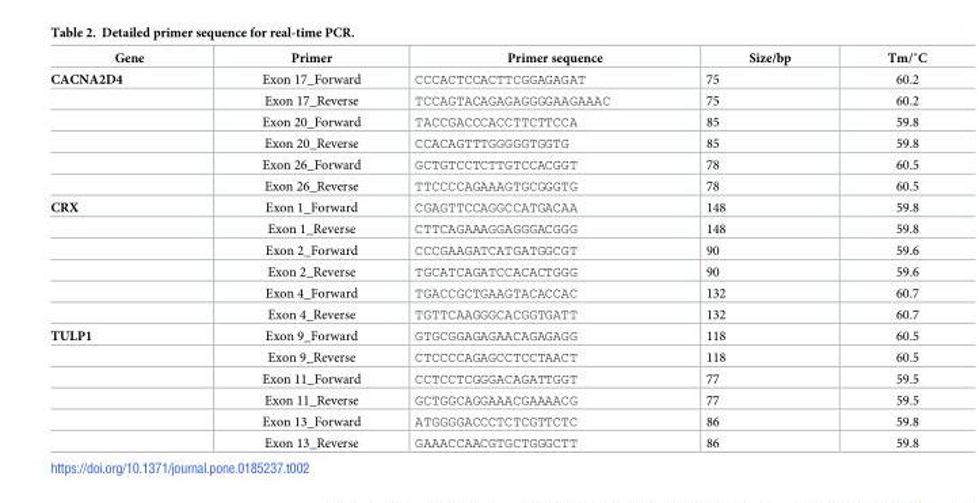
<table><thead><tr><td>Gene</td><td>Primer</td><td>Primer sequence</td><td>Size/bp</td><td>Tm/˚C</td></tr></thead><tbody><tr><td rowspan="6">CACNA2D4</td><td>Exon 17_Forward</td><td>CCCACTCCACTTCGGAGAGAT</td><td>75</td><td>60.2</td></tr><tr><td>Exon 17_Reverse</td><td>TCCAGTACAGAGAGGGGAAGAAAC</td><td>75</td><td>60.2</td></tr><tr><td>Exon 20_Forward</td><td>TACCGACCCACCTTCTTCCA</td><td>85</td><td>59.8</td></tr><tr><td>Exon 20_Reverse</td><td>CCACAGTTTGGGGGTGGTG</td><td>85</td><td>59.8</td></tr><tr><td>Exon 26_Forward</td><td>GCTGTCCTCTTGTCCACGGT</td><td>78</td><td>60.5</td></tr><tr><td>Exon 26_Reverse</td><td>TTCCCCAGAAAGTGCGGGTG</td><td>78</td><td>60.5</td></tr><tr><td rowspan="6">CRX</td><td>Exon 1_Forward</td><td>CGAGTTCCAGGCCATGACAA</td><td>148</td><td>59.8</td></tr><tr><td>Exon 1_Reverse</td><td>CTTCAGAAAGGAGGGACGGG</td><td>148</td><td>59.8</td></tr><tr><td>Exon 2_Forward</td><td>CCCGAAGATCATGATGGCGT</td><td>90</td><td>59.6</td></tr><tr><td>Exon 2_Reverse</td><td>TGCATCAGATCCACACTGGG</td><td>90</td><td>59.6</td></tr><tr><td>Exon 4_Forward</td><td>TGACCGCTGAAGTACACCAC</td><td>132</td><td>60.7</td></tr><tr><td>Exon 4_Reverse</td><td>TGTTCAAGGGCACGGTGATT</td><td>132</td><td>60.7</td></tr><tr><td rowspan="6">TULP1</td><td>Exon 9_Forward</td><td>GTGCGGAGAGAACAGAGAGG</td><td>118</td><td>60.5</td></tr><tr><td>Exon 9_Reverse</td><td>CTCCCCAGAGCCTCCTAACT</td><td>118</td><td>60.5</td></tr><tr><td>Exon 11_Forward</td><td>CCTCCTCGGGACAGATTGGT</td><td>77</td><td>59.5</td></tr><tr><td>Exon 11_Reverse</td><td>GCTGGCAGGAAACGAAAACG</td><td>77</td><td>59.5</td></tr><tr><td>Exon 13_Forward</td><td>ATGGGGACCCTCTCGTTCTC</td><td>86</td><td>59.8</td></tr><tr><td>Exon 13_Reverse</td><td>GAAACCAACGTGCTGGGCTT</td><td>86</td><td>59.8</td></tr></tbody></table>